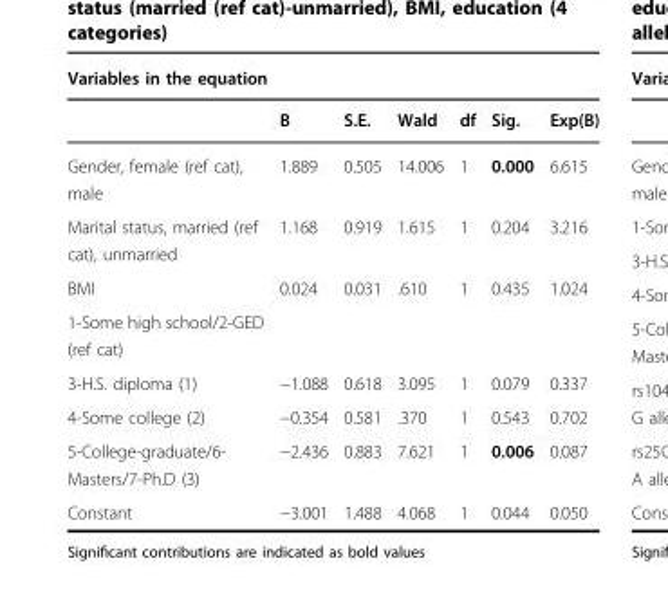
<table><thead><tr><td colspan="7">Variables in the equation</td></tr><tr><td></td><td>B</td><td>S.E.</td><td>Wald</td><td>df</td><td>Sig.</td><td>Exp(B)</td></tr></thead><tbody><tr><td>Gender, female (ref cat), male</td><td>1.889</td><td>0.505</td><td>14.006</td><td>1</td><td>0.000</td><td>6.615</td></tr><tr><td>Marital status, married (ref cat), unmarried</td><td>1.168</td><td>0.919</td><td>1.615</td><td>1</td><td>0.204</td><td>3.216</td></tr><tr><td>BMI</td><td>0.024</td><td>0.031</td><td>.610</td><td>1</td><td>0.435</td><td>1.024</td></tr><tr><td colspan="7">1-Some high school/2-GED (ref cat)</td></tr><tr><td>3-H.S. diploma (1)</td><td>−1.088</td><td>0.618</td><td>3.095</td><td>1</td><td>0.079</td><td>0.337</td></tr><tr><td>4-Some college (2)</td><td>−0.354</td><td>0.581</td><td>.370</td><td>1</td><td>0.543</td><td>0.702</td></tr><tr><td>5-College-graduate/6- Masters/7-Ph.D (3)</td><td>−2.436</td><td>0.883</td><td>7.621</td><td>1</td><td>0.006</td><td>0.087</td></tr><tr><td>Constant</td><td>−3.001</td><td>1.488</td><td>4.068</td><td>1</td><td>0.044</td><td>0.050</td></tr></tbody></table>